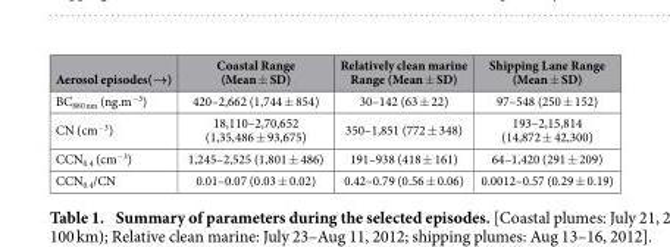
<table><thead><tr><td>Aerosol episodes(→)</td><td>Coastal Range (Mean ± SD)</td><td>Relatively clean marine Range (Mean ± SD)</td><td>Shipping Lane Range (Mean ± SD)</td></tr></thead><tbody><tr><td>BC<sub>880 nm</sub> (ng.m<sup>−3</sup>)</td><td>420–2,662 (1,744 ± 854)</td><td>30–142 (63 ± 22)</td><td>97–548 (250 ± 152)</td></tr><tr><td>CN (cm<sup>−3</sup>)</td><td>18,110–2,70,652 (1,35,486 ± 93,675)</td><td>350–1,851 (772 ± 348)</td><td>193–2,15,814 (14,872 ± 42,300)</td></tr><tr><td>CCN<sub>0.4</sub> (cm<sup>−3</sup>)</td><td>1,245–2,525 (1,801 ± 486)</td><td>191–938 (418 ± 161)</td><td>64–1,420 (291 ± 209)</td></tr><tr><td>CCN<sub>0.4</sub>/CN</td><td>0.01–0.07 (0.03 ± 0.02)</td><td>0.42–0.79 (0.56 ± 0.06)</td><td>0.0012–0.57 (0.29 ± 0.19)</td></tr></tbody></table>